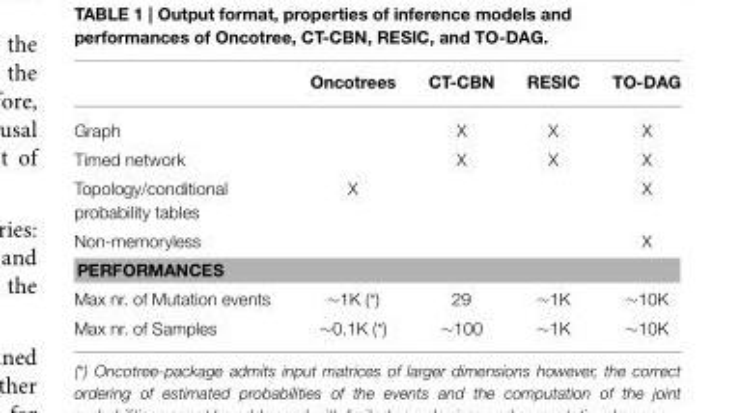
<table><thead><tr><td></td><td>Oncotrees</td><td>CT-CBN</td><td>RESIC</td><td>TO-DAG</td></tr></thead><tbody><tr><td>Graph</td><td></td><td>X</td><td>X</td><td>X</td></tr><tr><td>Timed network</td><td></td><td>X</td><td>X</td><td>X</td></tr><tr><td>Topology/conditional probability tables</td><td>X</td><td></td><td></td><td>X</td></tr><tr><td>Non-memoryless</td><td></td><td></td><td></td><td>X</td></tr><tr><td colspan="5">PERFORMANCES</td></tr><tr><td>Max nr. of Mutation events</td><td>∼1K (*)</td><td>29</td><td>∼1K</td><td>∼10K</td></tr><tr><td>Max nr. of Samples</td><td>∼0.1K (*)</td><td>∼100</td><td>∼1K</td><td>∼10K</td></tr></tbody></table>